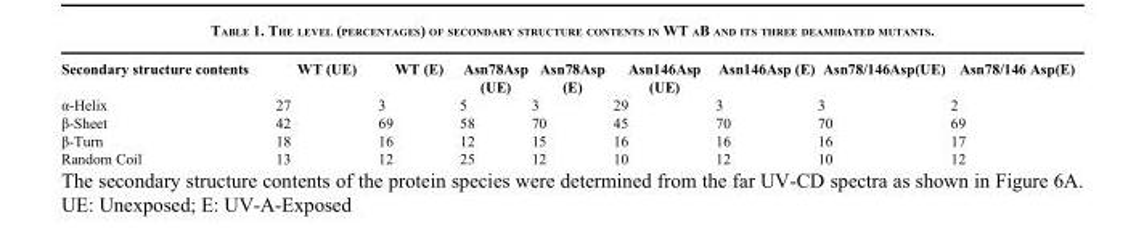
<table><thead><tr><td>Secondary structure contents</td><td>WT (UE)</td><td>WT (E)</td><td>Asn78Asp (UE)</td><td>Asn78Asp (E)</td><td>Asn146Asp (UE)</td><td>Asn146Asp (E)</td><td>Asn78/146Asp(UE)</td><td>Asn78/146 Asp(E)</td></tr></thead><tbody><tr><td>α-Helix</td><td>27</td><td>3</td><td>5</td><td>3</td><td>29</td><td>3</td><td>3</td><td>2</td></tr><tr><td>β-Sheet</td><td>42</td><td>69</td><td>58</td><td>70</td><td>45</td><td>70</td><td>70</td><td>69</td></tr><tr><td>β-Turn</td><td>18</td><td>16</td><td>12</td><td>15</td><td>16</td><td>16</td><td>16</td><td>17</td></tr><tr><td>Random Coil</td><td>13</td><td>12</td><td>25</td><td>12</td><td>10</td><td>12</td><td>10</td><td>12</td></tr></tbody></table>